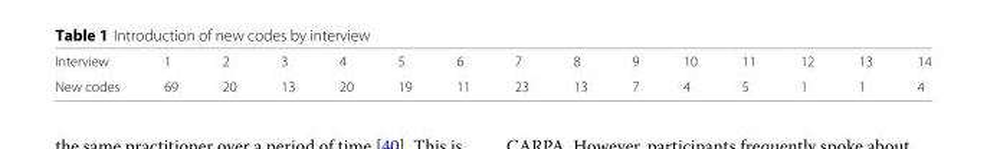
<table><tbody><tr><td>Interview</td><td>1</td><td>2</td><td>3</td><td>4</td><td>5</td><td>6</td><td>7</td><td>8</td><td>9</td><td>10</td><td>11</td><td>12</td><td>13</td><td>14</td></tr><tr><td>New codes</td><td>69</td><td>20</td><td>13</td><td>20</td><td>19</td><td>11</td><td>23</td><td>13</td><td>7</td><td>4</td><td>5</td><td>1</td><td>1</td><td>4</td></tr></tbody></table>